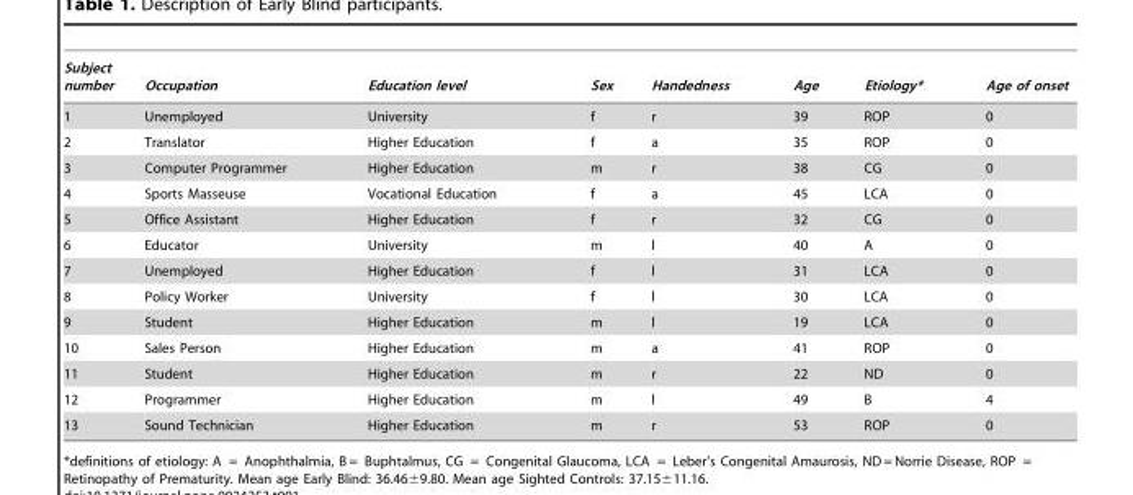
<table><thead><tr><td>Subject number</td><td>Occupation</td><td>Education level</td><td>Sex</td><td>Handedness</td><td>Age</td><td>Etiology*</td><td>Age of onset</td></tr></thead><tbody><tr><td>1</td><td>Unemployed</td><td>University</td><td>f</td><td>r</td><td>39</td><td>ROP</td><td>0</td></tr><tr><td>2</td><td>Translator</td><td>Higher Education</td><td>f</td><td>a</td><td>35</td><td>ROP</td><td>0</td></tr><tr><td>3</td><td>Computer Programmer</td><td>Higher Education</td><td>m</td><td>r</td><td>38</td><td>CG</td><td>0</td></tr><tr><td>4</td><td>Sports Masseuse</td><td>Vocational Education</td><td>f</td><td>a</td><td>45</td><td>LCA</td><td>0</td></tr><tr><td>5</td><td>Office Assistant</td><td>Higher Education</td><td>f</td><td>r</td><td>32</td><td>CG</td><td>0</td></tr><tr><td>6</td><td>Educator</td><td>University</td><td>m</td><td>l</td><td>40</td><td>A</td><td>0</td></tr><tr><td>7</td><td>Unemployed</td><td>Higher Education</td><td>f</td><td>l</td><td>31</td><td>LCA</td><td>0</td></tr><tr><td>8</td><td>Policy Worker</td><td>University</td><td>f</td><td>l</td><td>30</td><td>LCA</td><td>0</td></tr><tr><td>9</td><td>Student</td><td>Higher Education</td><td>m</td><td>l</td><td>19</td><td>LCA</td><td>0</td></tr><tr><td>10</td><td>Sales Person</td><td>Higher Education</td><td>m</td><td>a</td><td>41</td><td>ROP</td><td>0</td></tr><tr><td>11</td><td>Student</td><td>Higher Education</td><td>m</td><td>r</td><td>22</td><td>ND</td><td>0</td></tr><tr><td>12</td><td>Programmer</td><td>Higher Education</td><td>m</td><td>l</td><td>49</td><td>B</td><td>4</td></tr><tr><td>13</td><td>Sound Technician</td><td>Higher Education</td><td>m</td><td>r</td><td>53</td><td>ROP</td><td>0</td></tr></tbody></table>